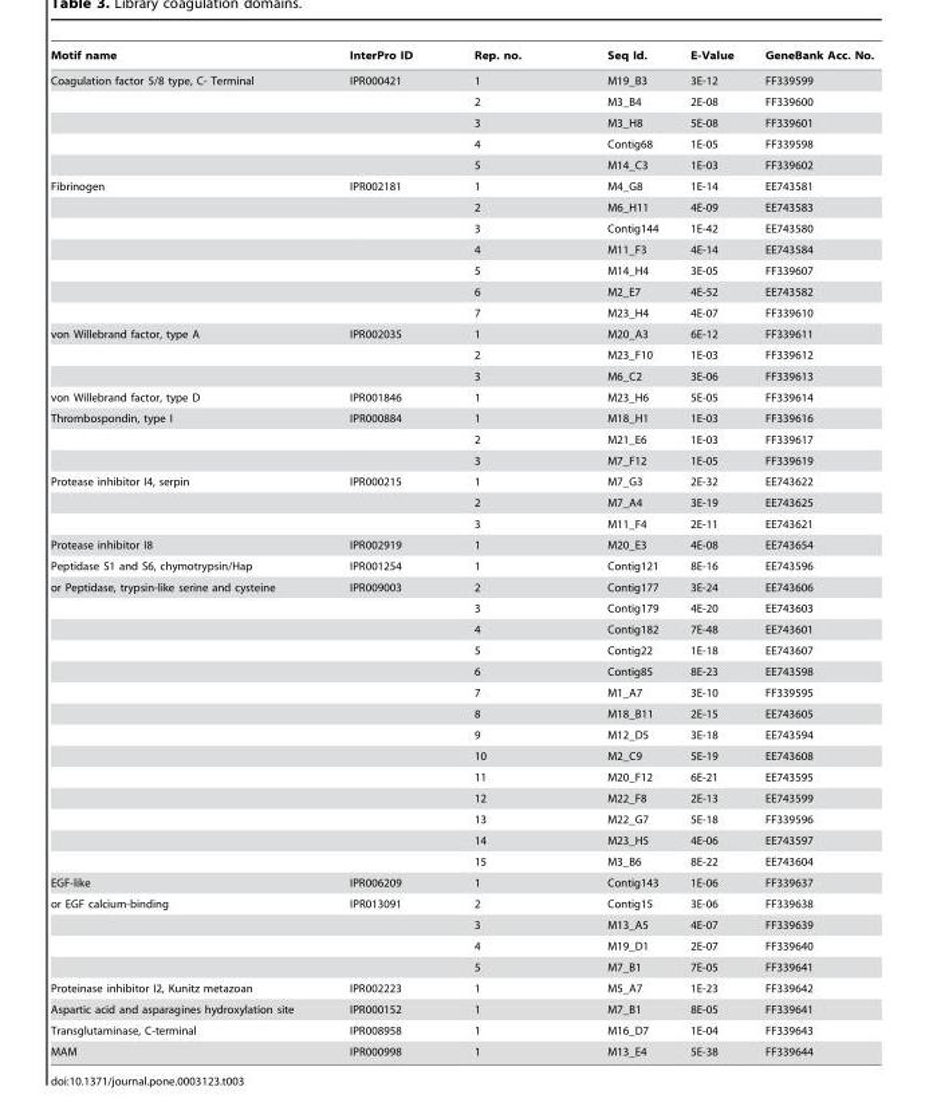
<table><thead><tr><td>Motif name</td><td>InterPro ID</td><td>Rep. no.</td><td>Seq Id.</td><td>E-Value</td><td>GeneBank Acc. No.</td></tr></thead><tbody><tr><td rowspan="5">Coagulation factor 5/8 type, C- Terminal</td><td>IPR000421</td><td>1</td><td>M19_B3</td><td>3E-12</td><td>FF339599</td></tr><tr><td></td><td>2</td><td>M3_B4</td><td>2E-08</td><td>FF339600</td></tr><tr><td></td><td>3</td><td>M3_H8</td><td>5E-08</td><td>FF339601</td></tr><tr><td></td><td>4</td><td>Contig68</td><td>1E-05</td><td>FF339598</td></tr><tr><td></td><td>5</td><td>M14_C3</td><td>1E-03</td><td>FF339602</td></tr><tr><td rowspan="7">Fibrinogen</td><td>IPR002181</td><td>1</td><td>M4_G8</td><td>1E-14</td><td>EE743581</td></tr><tr><td></td><td>2</td><td>M6_H11</td><td>4E-09</td><td>EE743583</td></tr><tr><td></td><td>3</td><td>Contig144</td><td>1E-42</td><td>EE743580</td></tr><tr><td></td><td>4</td><td>M11_F3</td><td>4E-14</td><td>EE743584</td></tr><tr><td></td><td>5</td><td>M14_H4</td><td>3E-05</td><td>FF339607</td></tr><tr><td></td><td>6</td><td>M2_E7</td><td>4E-52</td><td>EE743582</td></tr><tr><td></td><td>7</td><td>M23_H4</td><td>4E-07</td><td>FF339610</td></tr><tr><td rowspan="3">von Willebrand factor, type A</td><td>IPR002035</td><td>1</td><td>M20_A3</td><td>6E-12</td><td>FF339611</td></tr><tr><td></td><td>2</td><td>M23_F10</td><td>1E-03</td><td>FF339612</td></tr><tr><td></td><td>3</td><td>M6_C2</td><td>3E-06</td><td>FF339613</td></tr><tr><td>von Willebrand factor, type D</td><td>IPR001846</td><td>1</td><td>M23_H6</td><td>5E-05</td><td>FF339614</td></tr><tr><td rowspan="3">Thrombospondin, type I</td><td>IPR000884</td><td>1</td><td>M18_H1</td><td>1E-03</td><td>FF339616</td></tr><tr><td></td><td>2</td><td>M21_E6</td><td>1E-03</td><td>FF339617</td></tr><tr><td></td><td>3</td><td>M7_F12</td><td>1E-05</td><td>FF339619</td></tr><tr><td rowspan="3">Protease inhibitor I4, serpin</td><td>IPR000215</td><td>1</td><td>M7_G3</td><td>2E-32</td><td>EE743622</td></tr><tr><td></td><td>2</td><td>M7_A4</td><td>3E-19</td><td>EE743625</td></tr><tr><td></td><td>3</td><td>M11_F4</td><td>2E-11</td><td>EE743621</td></tr><tr><td>Protease inhibitor I8</td><td>IPR002919</td><td>1</td><td>M20_E3</td><td>4E-08</td><td>EE743654</td></tr><tr><td>Peptidase S1 and S6, chymotrypsin/Hap</td><td>IPR001254</td><td>1</td><td>Contig121</td><td>8E-16</td><td>EE743596</td></tr><tr><td rowspan="14">or Peptidase, trypsin-like serine and cysteine</td><td>IPR009003</td><td>2</td><td>Contig177</td><td>3E-24</td><td>EE743606</td></tr><tr><td></td><td>3</td><td>Contig179</td><td>4E-20</td><td>EE743603</td></tr><tr><td></td><td>4</td><td>Contig182</td><td>7E-48</td><td>EE743601</td></tr><tr><td></td><td>5</td><td>Contig22</td><td>1E-18</td><td>EE743607</td></tr><tr><td></td><td>6</td><td>Contig85</td><td>8E-23</td><td>EE743598</td></tr><tr><td></td><td>7</td><td>M1_A7</td><td>3E-10</td><td>FF339595</td></tr><tr><td></td><td>8</td><td>M18_B11</td><td>2E-15</td><td>EE743605</td></tr><tr><td></td><td>9</td><td>M12_D5</td><td>3E-18</td><td>EE743594</td></tr><tr><td></td><td>10</td><td>M2_C9</td><td>5E-19</td><td>EE743608</td></tr><tr><td></td><td>11</td><td>M20_F12</td><td>6E-21</td><td>EE743595</td></tr><tr><td></td><td>12</td><td>M22_F8</td><td>2E-13</td><td>EE743599</td></tr><tr><td></td><td>13</td><td>M22_G7</td><td>5E-18</td><td>FF339596</td></tr><tr><td></td><td>14</td><td>M23_H5</td><td>4E-06</td><td>EE743597</td></tr><tr><td></td><td>15</td><td>M3_B6</td><td>8E-22</td><td>EE743604</td></tr><tr><td>EGF-like</td><td>IPR006209</td><td>1</td><td>Contig143</td><td>1E-06</td><td>FF339637</td></tr><tr><td rowspan="4">or EGF calcium-binding</td><td>IPR013091</td><td>2</td><td>Contig15</td><td>3E-06</td><td>FF339638</td></tr><tr><td></td><td>3</td><td>M13_A5</td><td>4E-07</td><td>FF339639</td></tr><tr><td></td><td>4</td><td>M19_D1</td><td>2E-07</td><td>FF339640</td></tr><tr><td></td><td>5</td><td>M7_B1</td><td>7E-05</td><td>FF339641</td></tr><tr><td>Proteinase inhibitor I2, Kunitz metazoan</td><td>IPR002223</td><td>1</td><td>M5_A7</td><td>1E-23</td><td>FF339642</td></tr><tr><td>Aspartic acid and asparagines hydroxylation site</td><td>IPR000152</td><td>1</td><td>M7_B1</td><td>8E-05</td><td>FF339641</td></tr><tr><td>Transglutaminase, C-terminal</td><td>IPR008958</td><td>1</td><td>M16_D7</td><td>1E-04</td><td>FF339643</td></tr><tr><td>MAM</td><td>IPR000998</td><td>1</td><td>M13_E4</td><td>5E-38</td><td>FF339644</td></tr></tbody></table>